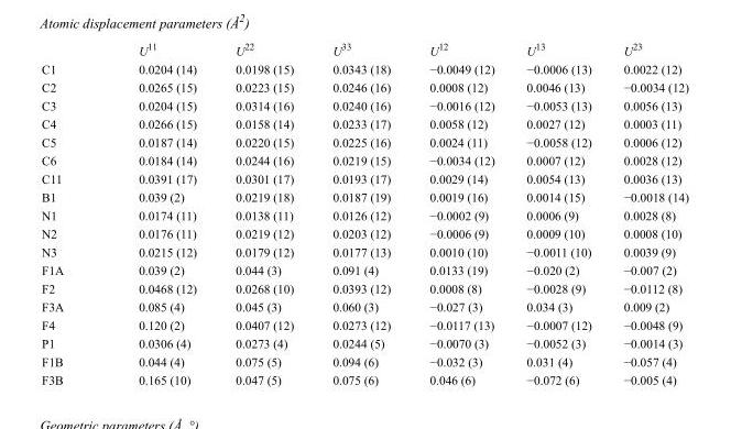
<table><thead><tr><td></td><td>U<sup>11</sup></td><td>U<sup>22</sup></td><td>U<sup>33</sup></td><td>U<sup>12</sup></td><td>U<sup>13</sup></td><td>U<sup>23</sup></td></tr></thead><tbody><tr><td>C1</td><td>0.0204 (14)</td><td>0.0198 (15)</td><td>0.0343 (18)</td><td>−0.0049 (12)</td><td>−0.0006 (13)</td><td>0.0022 (12)</td></tr><tr><td>C2</td><td>0.0265 (15)</td><td>0.0223 (15)</td><td>0.0246 (16)</td><td>0.0008 (12)</td><td>0.0046 (13)</td><td>−0.0034 (12)</td></tr><tr><td>C3</td><td>0.0204 (15)</td><td>0.0314 (16)</td><td>0.0240 (16)</td><td>−0.0016 (12)</td><td>−0.0053 (13)</td><td>0.0056 (13)</td></tr><tr><td>C4</td><td>0.0266 (15)</td><td>0.0158 (14)</td><td>0.0233 (17)</td><td>0.0058 (12)</td><td>0.0027 (12)</td><td>0.0003 (11)</td></tr><tr><td>C5</td><td>0.0187 (14)</td><td>0.0220 (15)</td><td>0.0225 (16)</td><td>0.0024 (11)</td><td>−0.0058 (12)</td><td>0.0006 (12)</td></tr><tr><td>C6</td><td>0.0184 (14)</td><td>0.0244 (16)</td><td>0.0219 (15)</td><td>−0.0034 (12)</td><td>0.0007 (12)</td><td>0.0028 (12)</td></tr><tr><td>C11</td><td>0.0391 (17)</td><td>0.0301 (17)</td><td>0.0193 (17)</td><td>0.0029 (14)</td><td>0.0054 (13)</td><td>0.0036 (13)</td></tr><tr><td>B1</td><td>0.039 (2)</td><td>0.0219 (18)</td><td>0.0187 (19)</td><td>0.0019 (16)</td><td>0.0014 (15)</td><td>−0.0018 (14)</td></tr><tr><td>N1</td><td>0.0174 (11)</td><td>0.0138 (11)</td><td>0.0126 (12)</td><td>−0.0002 (9)</td><td>0.0006 (9)</td><td>0.0028 (8)</td></tr><tr><td>N2</td><td>0.0176 (11)</td><td>0.0219 (12)</td><td>0.0203 (12)</td><td>−0.0006 (9)</td><td>0.0009 (10)</td><td>0.0008 (10)</td></tr><tr><td>N3</td><td>0.0215 (12)</td><td>0.0179 (12)</td><td>0.0177 (13)</td><td>0.0010 (10)</td><td>−0.0011 (10)</td><td>0.0039 (9)</td></tr><tr><td>F1A</td><td>0.039 (2)</td><td>0.044 (3)</td><td>0.091 (4)</td><td>0.0133 (19)</td><td>−0.020 (2)</td><td>−0.007 (2)</td></tr><tr><td>F2</td><td>0.0468 (12)</td><td>0.0268 (10)</td><td>0.0393 (12)</td><td>0.0008 (8)</td><td>−0.0028 (9)</td><td>−0.0112 (8)</td></tr><tr><td>F3A</td><td>0.085 (4)</td><td>0.045 (3)</td><td>0.060 (3)</td><td>−0.027 (3)</td><td>0.034 (3)</td><td>0.009 (2)</td></tr><tr><td>F4</td><td>0.120 (2)</td><td>0.0407 (12)</td><td>0.0273 (12)</td><td>−0.0117 (13)</td><td>−0.0007 (12)</td><td>−0.0048 (9)</td></tr><tr><td>P1</td><td>0.0306 (4)</td><td>0.0273 (4)</td><td>0.0244 (5)</td><td>−0.0070 (3)</td><td>−0.0052 (3)</td><td>−0.0014 (3)</td></tr><tr><td>F1B</td><td>0.044 (4)</td><td>0.075 (5)</td><td>0.094 (6)</td><td>−0.032 (3)</td><td>0.031 (4)</td><td>−0.057 (4)</td></tr><tr><td>F3B</td><td>0.165 (10)</td><td>0.047 (5)</td><td>0.075 (6)</td><td>0.046 (6)</td><td>−0.072 (6)</td><td>−0.005 (4)</td></tr></tbody></table>